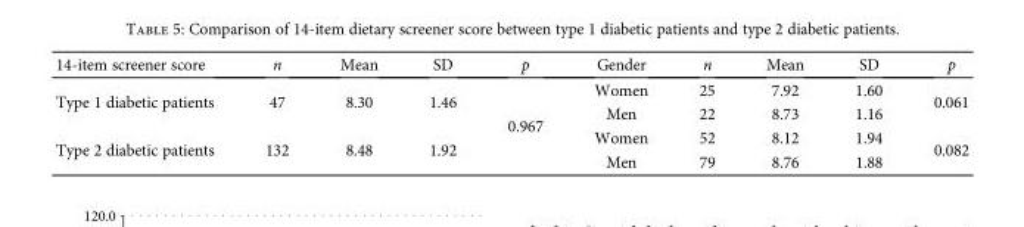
<table><thead><tr><td>14-item screener score</td><td>n</td><td>Mean</td><td>SD</td><td>p</td><td>Gender</td><td>n</td><td>Mean</td><td>SD</td><td>p</td></tr></thead><tbody><tr><td rowspan="2">Type 1 diabetic patients</td><td rowspan="2">47</td><td rowspan="2">8.30</td><td rowspan="2">1.46</td><td rowspan="4">0.967</td><td>Women</td><td>25</td><td>7.92</td><td>1.60</td><td rowspan="2">0.061</td></tr><tr><td>Men</td><td>22</td><td>8.73</td><td>1.16</td></tr><tr><td rowspan="2">Type 2 diabetic patients</td><td rowspan="2">132</td><td rowspan="2">8.48</td><td rowspan="2">1.92</td><td>Women</td><td>52</td><td>8.12</td><td>1.94</td><td rowspan="2">0.082</td></tr><tr><td>Men</td><td>79</td><td>8.76</td><td>1.88</td></tr></tbody></table>